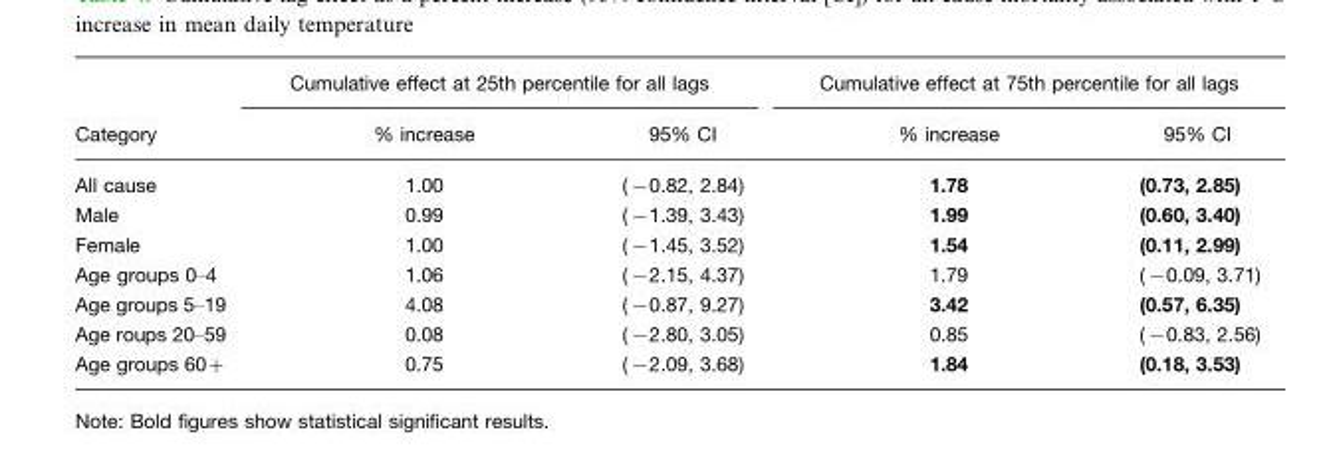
<table><thead><tr><td rowspan="2">Category</td><td colspan="2">Cumulative effect at 25th percentile for all lags</td><td colspan="2">Cumulative effect at 75th percentile for all lags</td></tr><tr><td>% increase</td><td>95% CI</td><td>% increase</td><td>95% CI</td></tr></thead><tbody><tr><td>All cause</td><td>1.00</td><td>(−0.82, 2.84)</td><td>1.78</td><td>(0.73, 2.85)</td></tr><tr><td>Male</td><td>0.99</td><td>(−1.39, 3.43)</td><td>1.99</td><td>(0.60, 3.40)</td></tr><tr><td>Female</td><td>1.00</td><td>(−1.45, 3.52)</td><td>1.54</td><td>(0.11, 2.99)</td></tr><tr><td>Age groups 0–4</td><td>1.06</td><td>(−2.15, 4.37)</td><td>1.79</td><td>(−0.09, 3.71)</td></tr><tr><td>Age groups 5–19</td><td>4.08</td><td>(−0.87, 9.27)</td><td>3.42</td><td>(0.57, 6.35)</td></tr><tr><td>Age roups 20–59</td><td>0.08</td><td>(−2.80, 3.05)</td><td>0.85</td><td>(−0.83, 2.56)</td></tr><tr><td>Age groups 60+</td><td>0.75</td><td>(−2.09, 3.68)</td><td>1.84</td><td>(0.18, 3.53)</td></tr></tbody></table>